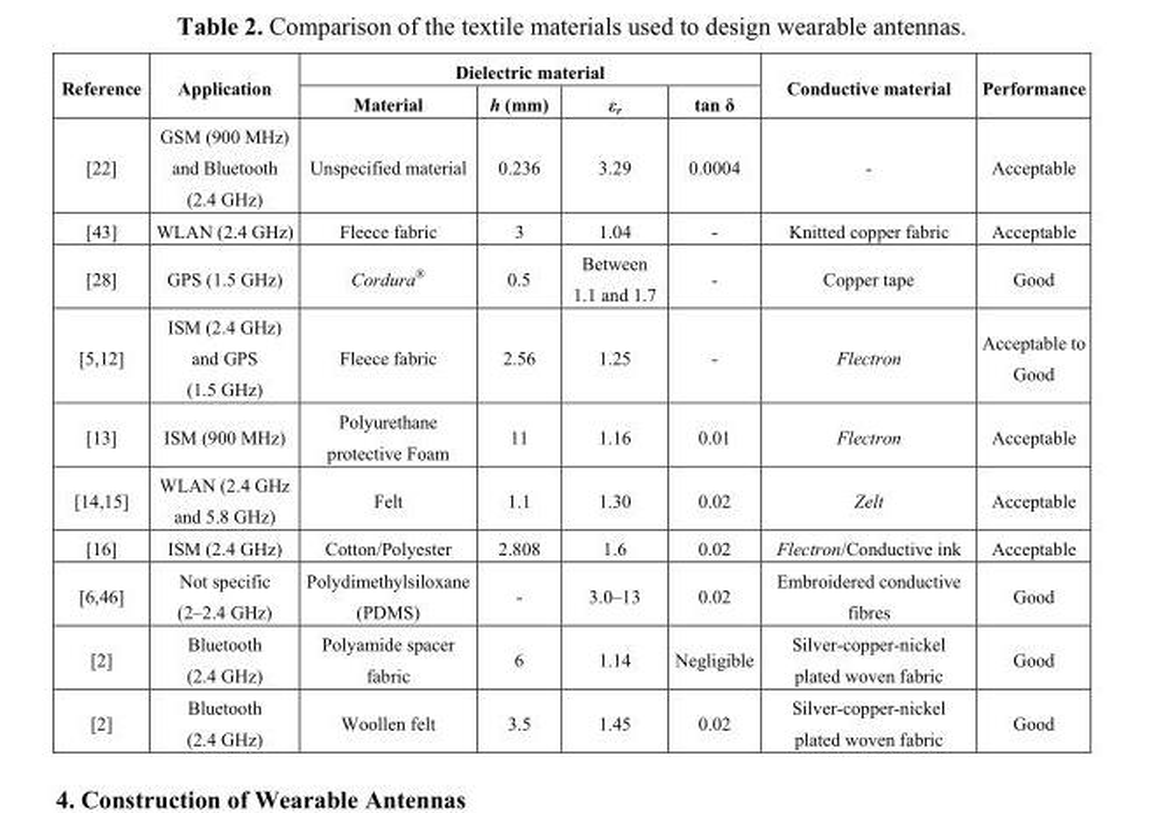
<table><thead><tr><td rowspan="2">Reference</td><td rowspan="2">Application</td><td colspan="4">Dielectric material</td><td rowspan="2">Conductive material</td><td rowspan="2">Performance</td></tr><tr><td>Material</td><td>h (mm)</td><td>ε<sub>r</sub></td><td>tan δ</td></tr></thead><tbody><tr><td>[22]</td><td>GSM (900 MHz) and Bluetooth (2.4 GHz)</td><td>Unspecified material</td><td>0.236</td><td>3.29</td><td>0.0004</td><td>-</td><td>Acceptable</td></tr><tr><td>[43]</td><td>WLAN (2.4 GHz)</td><td>Fleece fabric</td><td>3</td><td>1.04</td><td>-</td><td>Knitted copper fabric</td><td>Acceptable</td></tr><tr><td>[28]</td><td>GPS (1.5 GHz)</td><td>Cordura<sup>®</sup></td><td>0.5</td><td>Between 1.1 and 1.7</td><td>-</td><td>Copper tape</td><td>Good</td></tr><tr><td>[5,12]</td><td>ISM (2.4 GHz) and GPS (1.5 GHz)</td><td>Fleece fabric</td><td>2.56</td><td>1.25</td><td>-</td><td>Flectron</td><td>Acceptable to Good</td></tr><tr><td>[13]</td><td>ISM (900 MHz)</td><td>Polyurethane protective Foam</td><td>11</td><td>1.16</td><td>0.01</td><td>Flectron</td><td>Acceptable</td></tr><tr><td>[14,15]</td><td>WLAN (2.4 GHz and 5.8 GHz)</td><td>Felt</td><td>1.1</td><td>1.30</td><td>0.02</td><td>Zelt</td><td>Acceptable</td></tr><tr><td>[16]</td><td>ISM (2.4 GHz)</td><td>Cotton/Polyester</td><td>2.808</td><td>1.6</td><td>0.02</td><td>Flectron/Conductive ink</td><td>Acceptable</td></tr><tr><td>[6,46]</td><td>Not specific (2–2.4 GHz)</td><td>Polydimethylsiloxane (PDMS)</td><td>-</td><td>3.0–13</td><td>0.02</td><td>Embroidered conductive fibres</td><td>Good</td></tr><tr><td>[2]</td><td>Bluetooth (2.4 GHz)</td><td>Polyamide spacer fabric</td><td>6</td><td>1.14</td><td>Negligible</td><td>Silver-copper-nickel plated woven fabric</td><td>Good</td></tr><tr><td>[2]</td><td>Bluetooth (2.4 GHz)</td><td>Woollen felt</td><td>3.5</td><td>1.45</td><td>0.02</td><td>Silver-copper-nickel plated woven fabric</td><td>Good</td></tr></tbody></table>